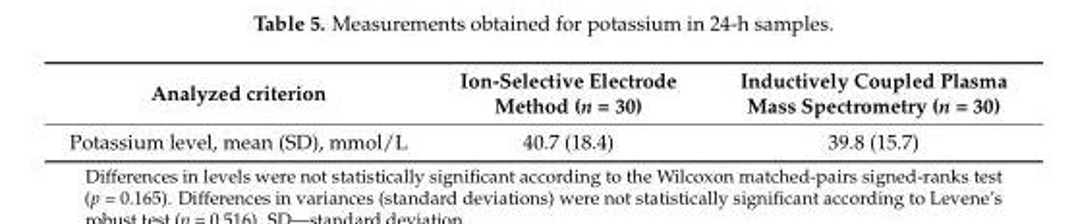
<table><thead><tr><td>Analyzed criterion</td><td>Ion-Selective Electrode Method (n = 30)</td><td>Inductively Coupled Plasma Mass Spectrometry (n = 30)</td></tr></thead><tbody><tr><td>Potassium level, mean (SD), mmol/L</td><td>40.7 (18.4)</td><td>39.8 (15.7)</td></tr></tbody></table>